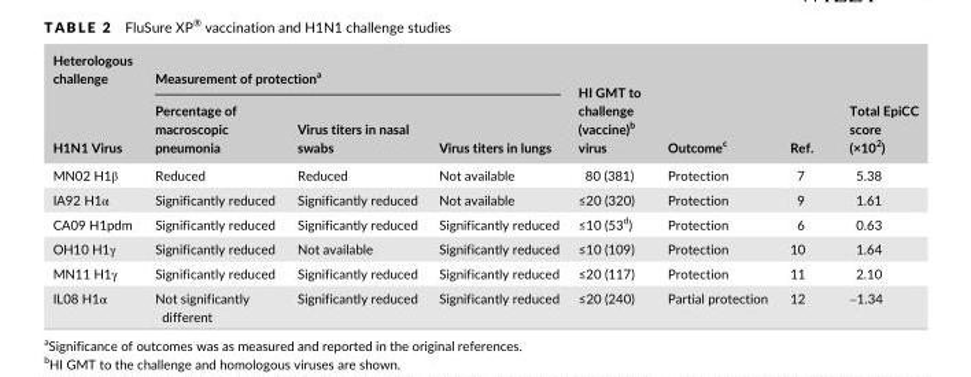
<table><thead><tr><td rowspan="2">Heterologous challenge H1N1 Virus</td><td colspan="3">Measurement of protection<sup>a</sup></td><td rowspan="2">HI GMT to challenge (vaccine)<sup>b</sup> virus</td><td rowspan="2">Outcome<sup>c</sup></td><td rowspan="2">Ref.</td><td rowspan="2">Total EpiCC score (×10<sup>2</sup>)</td></tr><tr><td>Percentage of macroscopic pneumonia</td><td>Virus titers in nasal swabs</td><td>Virus titers in lungs</td></tr></thead><tbody><tr><td>MN02 H1β</td><td>Reduced</td><td>Reduced</td><td>Not available</td><td>80 (381)</td><td>Protection</td><td>7</td><td>5.38</td></tr><tr><td>IA92 H1α</td><td>Significantly reduced</td><td>Significantly reduced</td><td>Not available</td><td>≤20 (320)</td><td>Protection</td><td>9</td><td>1.61</td></tr><tr><td>CA09 H1pdm</td><td>Significantly reduced</td><td>Significantly reduced</td><td>Significantly reduced</td><td>≤10 (53<sup>d</sup>)</td><td>Protection</td><td>6</td><td>0.63</td></tr><tr><td>OH10 H1γ</td><td>Significantly reduced</td><td>Not available</td><td>Significantly reduced</td><td>≤10 (109)</td><td>Protection</td><td>10</td><td>1.64</td></tr><tr><td>MN11 H1γ</td><td>Significantly reduced</td><td>Significantly reduced</td><td>Significantly reduced</td><td>≤20 (117)</td><td>Protection</td><td>11</td><td>2.10</td></tr><tr><td>IL08 H1α</td><td>Not significantly different</td><td>Significantly reduced</td><td>Significantly reduced</td><td>≤20 (240)</td><td>Partial protection</td><td>12</td><td>-1.34</td></tr></tbody></table>